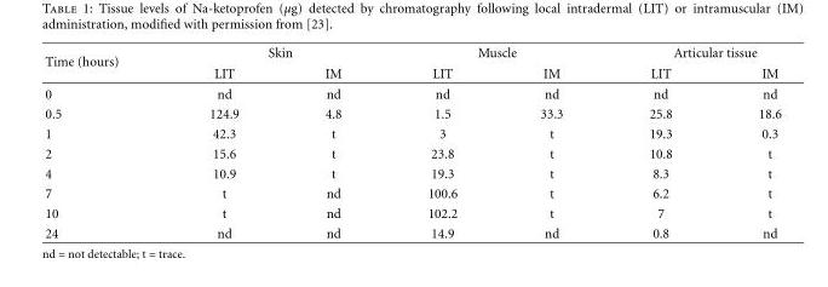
<table><thead><tr><td rowspan="2">Time (hours)</td><td colspan="2">Skin</td><td colspan="2">Muscle</td><td colspan="2">Articular tissue</td></tr><tr><td>LIT</td><td>IM</td><td>LIT</td><td>IM</td><td>LIT</td><td>IM</td></tr></thead><tbody><tr><td>0</td><td>nd</td><td>nd</td><td>nd</td><td>nd</td><td>nd</td><td>nd</td></tr><tr><td>0.5</td><td>124.9</td><td>4.8</td><td>1.5</td><td>33.3</td><td>25.8</td><td>18.6</td></tr><tr><td>1</td><td>42.3</td><td>t</td><td>3</td><td>t</td><td>19.3</td><td>0.3</td></tr><tr><td>2</td><td>15.6</td><td>t</td><td>23.8</td><td>t</td><td>10.8</td><td>t</td></tr><tr><td>4</td><td>10.9</td><td>t</td><td>19.3</td><td>t</td><td>8.3</td><td>t</td></tr><tr><td>7</td><td>t</td><td>nd</td><td>100.6</td><td>t</td><td>6.2</td><td>t</td></tr><tr><td>10</td><td>t</td><td>nd</td><td>102.2</td><td>t</td><td>7</td><td>t</td></tr><tr><td>24</td><td>nd</td><td>nd</td><td>14.9</td><td>nd</td><td>0.8</td><td>nd</td></tr></tbody></table>